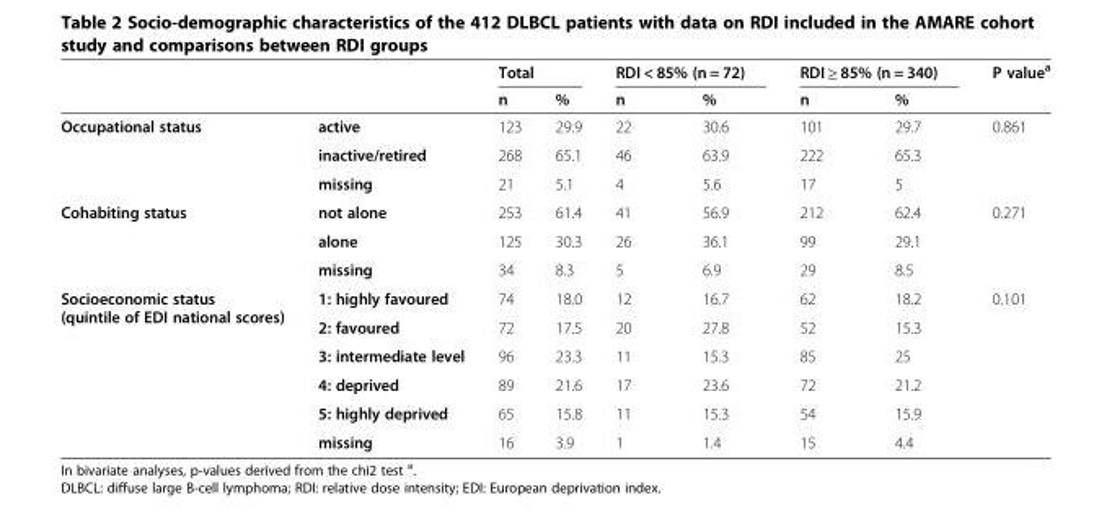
<table><thead><tr><td rowspan="2"></td><td rowspan="2"></td><td colspan="2">Total</td><td colspan="2">RDI &lt; 85% (n = 72)</td><td colspan="2">RDI ≥ 85% (n = 340)</td><td rowspan="2">P value<sup>a</sup></td></tr><tr><td>n</td><td>%</td><td>n</td><td>%</td><td>n</td><td>%</td></tr></thead><tbody><tr><td rowspan="3">Occupational status</td><td>active</td><td>123</td><td>29.9</td><td>22</td><td>30.6</td><td>101</td><td>29.7</td><td>0.861</td></tr><tr><td>inactive/retired</td><td>268</td><td>65.1</td><td>46</td><td>63.9</td><td>222</td><td>65.3</td><td></td></tr><tr><td>missing</td><td>21</td><td>5.1</td><td>4</td><td>5.6</td><td>17</td><td>5</td><td></td></tr><tr><td rowspan="3">Cohabiting status</td><td>not alone</td><td>253</td><td>61.4</td><td>41</td><td>56.9</td><td>212</td><td>62.4</td><td>0.271</td></tr><tr><td>alone</td><td>125</td><td>30.3</td><td>26</td><td>36.1</td><td>99</td><td>29.1</td><td></td></tr><tr><td>missing</td><td>34</td><td>8.3</td><td>5</td><td>6.9</td><td>29</td><td>8.5</td><td></td></tr><tr><td rowspan="6">Socioeconomic status (quintile of EDI national scores)</td><td>1: highly favoured</td><td>74</td><td>18.0</td><td>12</td><td>16.7</td><td>62</td><td>18.2</td><td>0.101</td></tr><tr><td>2: favoured</td><td>72</td><td>17.5</td><td>20</td><td>27.8</td><td>52</td><td>15.3</td><td></td></tr><tr><td>3: intermediate level</td><td>96</td><td>23.3</td><td>11</td><td>15.3</td><td>85</td><td>25</td><td></td></tr><tr><td>4: deprived</td><td>89</td><td>21.6</td><td>17</td><td>23.6</td><td>72</td><td>21.2</td><td></td></tr><tr><td>5: highly deprived</td><td>65</td><td>15.8</td><td>11</td><td>15.3</td><td>54</td><td>15.9</td><td></td></tr><tr><td>missing</td><td>16</td><td>3.9</td><td>1</td><td>1.4</td><td>15</td><td>4.4</td><td></td></tr></tbody></table>